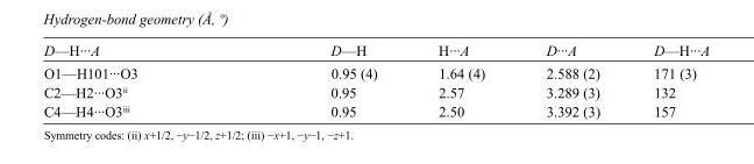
<table><tbody><tr><td>D—H···A</td><td>D—H</td><td>H···A</td><td>D···A</td><td>D—H···A</td></tr><tr><td>O1—H101···O3</td><td>0.95 (4)</td><td>1.64 (4)</td><td>2.588 (2)</td><td>171 (3)</td></tr><tr><td>C2—H2···O3<sup>ii</sup></td><td>0.95</td><td>2.57</td><td>3.289 (3)</td><td>132</td></tr><tr><td>C4—H4···O3<sup>iii</sup></td><td>0.95</td><td>2.50</td><td>3.392 (3)</td><td>157</td></tr></tbody></table>